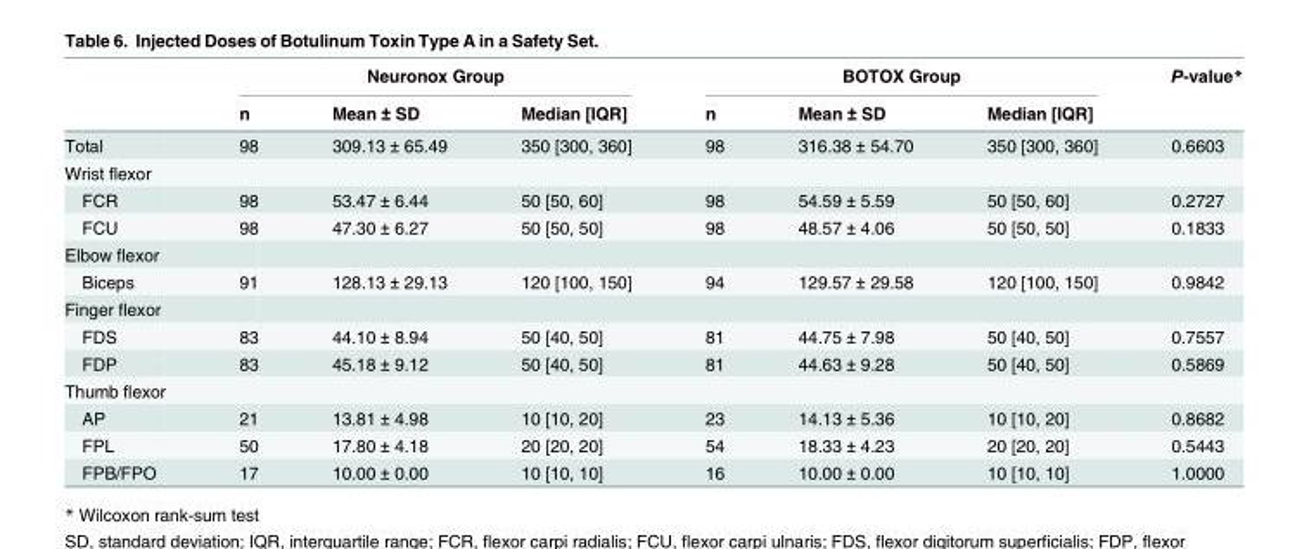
<table><thead><tr><td rowspan="2"></td><td colspan="3">Neuronox Group</td><td colspan="3">BOTOX Group</td><td rowspan="2">P-value*</td></tr><tr><td>n</td><td>Mean ± SD</td><td>Median [IQR]</td><td>n</td><td>Mean ± SD</td><td>Median [IQR]</td></tr></thead><tbody><tr><td>Total</td><td>98</td><td>309.13 ± 65.49</td><td>350 [300, 360]</td><td>98</td><td>316.38 ± 54.70</td><td>350 [300, 360]</td><td>0.6603</td></tr><tr><td colspan="8">Wrist flexor</td></tr><tr><td>FCR</td><td>98</td><td>53.47 ± 6.44</td><td>50 [50, 60]</td><td>98</td><td>54.59 ± 5.59</td><td>50 [50, 60]</td><td>0.2727</td></tr><tr><td>FCU</td><td>98</td><td>47.30 ± 6.27</td><td>50 [50, 50]</td><td>98</td><td>48.57 ± 4.06</td><td>50 [50, 50]</td><td>0.1833</td></tr><tr><td colspan="8">Elbow flexor</td></tr><tr><td>Biceps</td><td>91</td><td>128.13 ± 29.13</td><td>120 [100, 150]</td><td>94</td><td>129.57 ± 29.58</td><td>120 [100, 150]</td><td>0.9842</td></tr><tr><td colspan="8">Finger flexor</td></tr><tr><td>FDS</td><td>83</td><td>44.10 ± 8.94</td><td>50 [40, 50]</td><td>81</td><td>44.75 ± 7.98</td><td>50 [40, 50]</td><td>0.7557</td></tr><tr><td>FDP</td><td>83</td><td>45.18 ± 9.12</td><td>50 [40, 50]</td><td>81</td><td>44.63 ± 9.28</td><td>50 [40, 50]</td><td>0.5869</td></tr><tr><td colspan="8">Thumb flexor</td></tr><tr><td>AP</td><td>21</td><td>13.81 ± 4.98</td><td>10 [10, 20]</td><td>23</td><td>14.13 ± 5.36</td><td>10 [10, 20]</td><td>0.8682</td></tr><tr><td>FPL</td><td>50</td><td>17.80 ± 4.18</td><td>20 [20, 20]</td><td>54</td><td>18.33 ± 4.23</td><td>20 [20, 20]</td><td>0.5443</td></tr><tr><td>FPB/FPO</td><td>17</td><td>10.00 ± 0.00</td><td>10 [10, 10]</td><td>16</td><td>10.00 ± 0.00</td><td>10 [10, 10]</td><td>1.0000</td></tr></tbody></table>